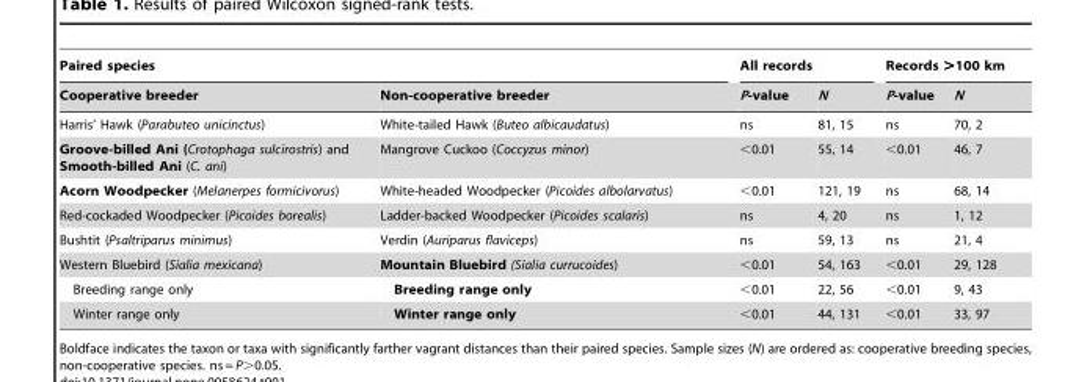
<table><thead><tr><td colspan="2">Paired species</td><td colspan="2">All records</td><td colspan="2">Records &gt;100 km</td></tr><tr><td>Cooperative breeder</td><td>Non-cooperative breeder</td><td>P-value</td><td>N</td><td>P-value</td><td>N</td></tr></thead><tbody><tr><td>Harris’ Hawk (Parabuteo unicinctus)</td><td>White-tailed Hawk (Buteo albicaudatus)</td><td>ns</td><td>81, 15</td><td>ns</td><td>70, 2</td></tr><tr><td>Groove-billed Ani (Crotophaga sulcirostris) and Smooth-billed Ani (C. ani)</td><td>Mangrove Cuckoo (Coccyzus minor)</td><td>&lt;0.01</td><td>55, 14</td><td>&lt;0.01</td><td>46, 7</td></tr><tr><td>Acorn Woodpecker (Melanerpes formicivorus)</td><td>White-headed Woodpecker (Picoides albolarvatus)</td><td>&lt;0.01</td><td>121, 19</td><td>ns</td><td>68, 14</td></tr><tr><td>Red-cockaded Woodpecker (Picoides borealis)</td><td>Ladder-backed Woodpecker (Picoides scalaris)</td><td>ns</td><td>4, 20</td><td>ns</td><td>1, 12</td></tr><tr><td>Bushtit (Psaltriparus minimus)</td><td>Verdin (Auriparus flaviceps)</td><td>ns</td><td>59, 13</td><td>ns</td><td>21, 4</td></tr><tr><td>Western Bluebird (Sialia mexicana)</td><td>Mountain Bluebird (Sialia currucoides)</td><td>&lt;0.01</td><td>54, 163</td><td>&lt;0.01</td><td>29, 128</td></tr><tr><td>Breeding range only</td><td>Breeding range only</td><td>&lt;0.01</td><td>22, 56</td><td>&lt;0.01</td><td>9, 43</td></tr><tr><td>Winter range only</td><td>Winter range only</td><td>&lt;0.01</td><td>44, 131</td><td>&lt;0.01</td><td>33, 97</td></tr></tbody></table>